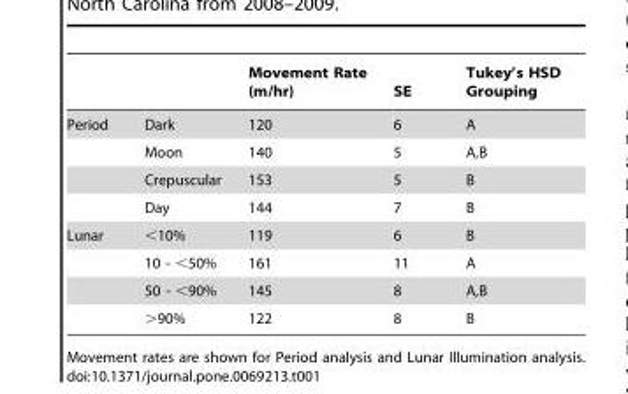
<table><thead><tr><td></td><td></td><td>Movement Rate (m/hr)</td><td>SE</td><td>Tukey’s HSD Grouping</td></tr></thead><tbody><tr><td rowspan="4">Period</td><td>Dark</td><td>120</td><td>6</td><td>A</td></tr><tr><td>Moon</td><td>140</td><td>5</td><td>A,B</td></tr><tr><td>Crepuscular</td><td>153</td><td>5</td><td>B</td></tr><tr><td>Day</td><td>144</td><td>7</td><td>B</td></tr><tr><td rowspan="4">Lunar</td><td>&lt;10%</td><td>119</td><td>6</td><td>B</td></tr><tr><td>10 - &lt;50%</td><td>161</td><td>11</td><td>A</td></tr><tr><td>50 - &lt;90%</td><td>145</td><td>8</td><td>A,B</td></tr><tr><td>&gt;90%</td><td>122</td><td>8</td><td>B</td></tr></tbody></table>